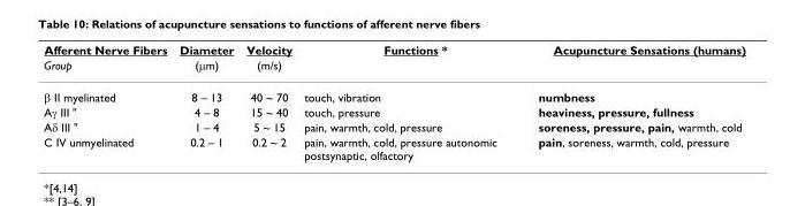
<table><thead><tr><td rowspan="2">Afferent Nerve Fibers Group</td><td rowspan="2">Diameter (µm)</td><td rowspan="2">Velocity (m/s)</td><td rowspan="2">Functions *</td><td rowspan="2">Acupuncture Sensations (humans)</td></tr><tr></tr></thead><tbody><tr><td>β II myelinated</td><td>8 – 13</td><td>40 ~ 70</td><td>touch, vibration</td><td>numbness</td></tr><tr><td>Aγ III &quot;</td><td>4 – 8</td><td>15 ~ 40</td><td>touch, pressure</td><td>heaviness, pressure, fullness</td></tr><tr><td>Aδ III &quot;</td><td>1 – 4</td><td>5 ~ 15</td><td>pain, warmth, cold, pressure</td><td>soreness, pressure, pain, warmth, cold</td></tr><tr><td>C IV unmyelinated</td><td>0.2 – 1</td><td>0.2 ~ 2</td><td>pain, warmth, cold, pressure autonomic postsynaptic, olfactory</td><td>pain, soreness, warmth, cold, pressure</td></tr></tbody></table>